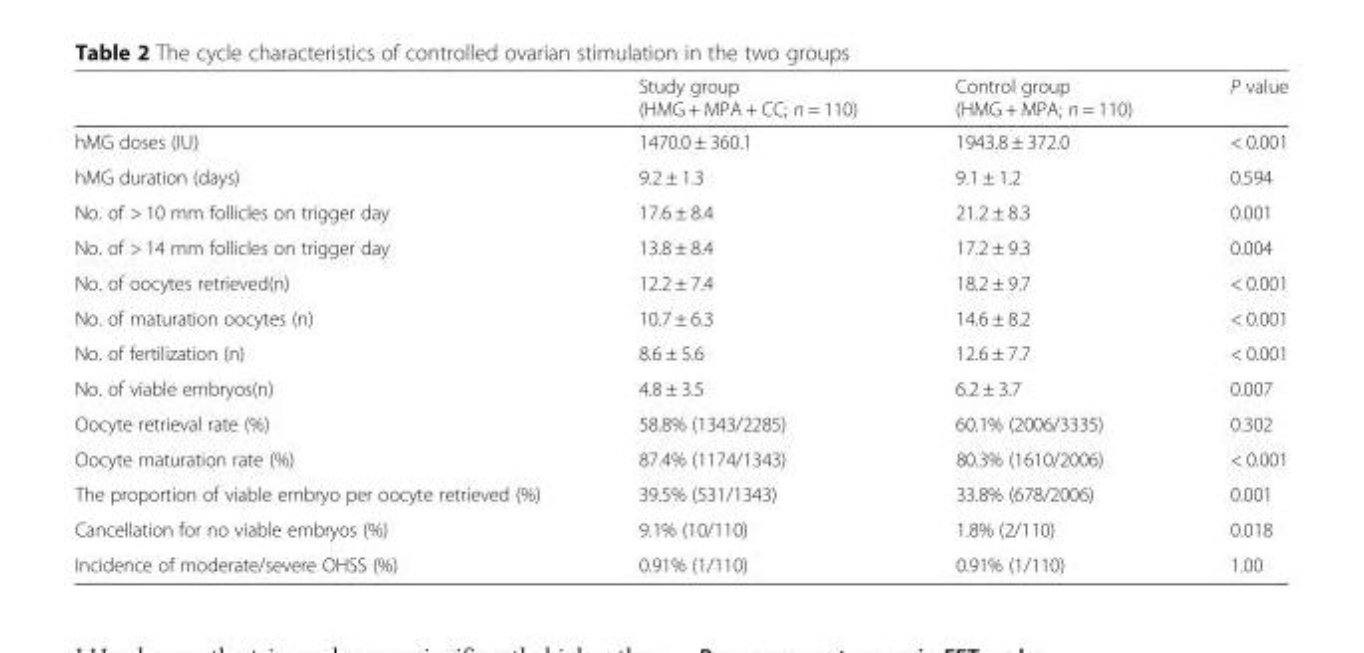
<table><thead><tr><td></td><td>Study group (HMG + MPA + CC; n = 110)</td><td>Control group (HMG + MPA; n = 110)</td><td>P value</td></tr></thead><tbody><tr><td>hMG doses (IU)</td><td>1470.0 ± 360.1</td><td>1943.8 ± 372.0</td><td>&lt; 0.001</td></tr><tr><td>hMG duration (days)</td><td>9.2 ± 1.3</td><td>9.1 ± 1.2</td><td>0.594</td></tr><tr><td>No. of &gt; 10 mm follicles on trigger day</td><td>17.6 ± 8.4</td><td>21.2 ± 8.3</td><td>0.001</td></tr><tr><td>No. of &gt; 14 mm follicles on trigger day</td><td>13.8 ± 8.4</td><td>17.2 ± 9.3</td><td>0.004</td></tr><tr><td>No. of oocytes retrieved(n)</td><td>12.2 ± 7.4</td><td>18.2 ± 9.7</td><td>&lt; 0.001</td></tr><tr><td>No. of maturation oocytes (n)</td><td>10.7 ± 6.3</td><td>14.6 ± 8.2</td><td>&lt; 0.001</td></tr><tr><td>No. of fertilization (n)</td><td>8.6 ± 5.6</td><td>12.6 ± 7.7</td><td>&lt; 0.001</td></tr><tr><td>No. of viable embryos(n)</td><td>4.8 ± 3.5</td><td>6.2 ± 3.7</td><td>0.007</td></tr><tr><td>Oocyte retrieval rate (%)</td><td>58.8% (1343/2285)</td><td>60.1% (2006/3335)</td><td>0.302</td></tr><tr><td>Oocyte maturation rate (%)</td><td>87.4% (1174/1343)</td><td>80.3% (1610/2006)</td><td>&lt; 0.001</td></tr><tr><td>The proportion of viable embryo per oocyte retrieved (%)</td><td>39.5% (531/1343)</td><td>33.8% (678/2006)</td><td>0.001</td></tr><tr><td>Cancellation for no viable embryos (%)</td><td>9.1% (10/110)</td><td>1.8% (2/110)</td><td>0.018</td></tr><tr><td>Incidence of moderate/severe OHSS (%)</td><td>0.91% (1/110)</td><td>0.91% (1/110)</td><td>1.00</td></tr></tbody></table>